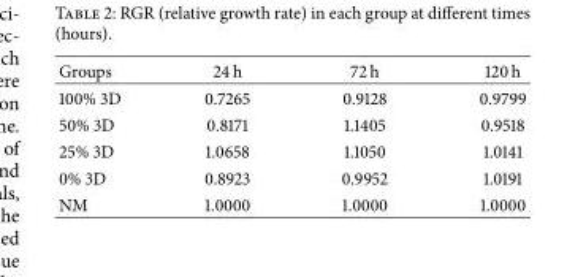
<table><thead><tr><td>Groups</td><td>24 h</td><td>72 h</td><td>120 h</td></tr></thead><tbody><tr><td>100% 3D</td><td>0.7265</td><td>0.9128</td><td>0.9799</td></tr><tr><td>50% 3D</td><td>0.8171</td><td>1.1405</td><td>0.9518</td></tr><tr><td>25% 3D</td><td>1.0658</td><td>1.1050</td><td>1.0141</td></tr><tr><td>0% 3D</td><td>0.8923</td><td>0.9952</td><td>1.0191</td></tr><tr><td>NM</td><td>1.0000</td><td>1.0000</td><td>1.0000</td></tr></tbody></table>